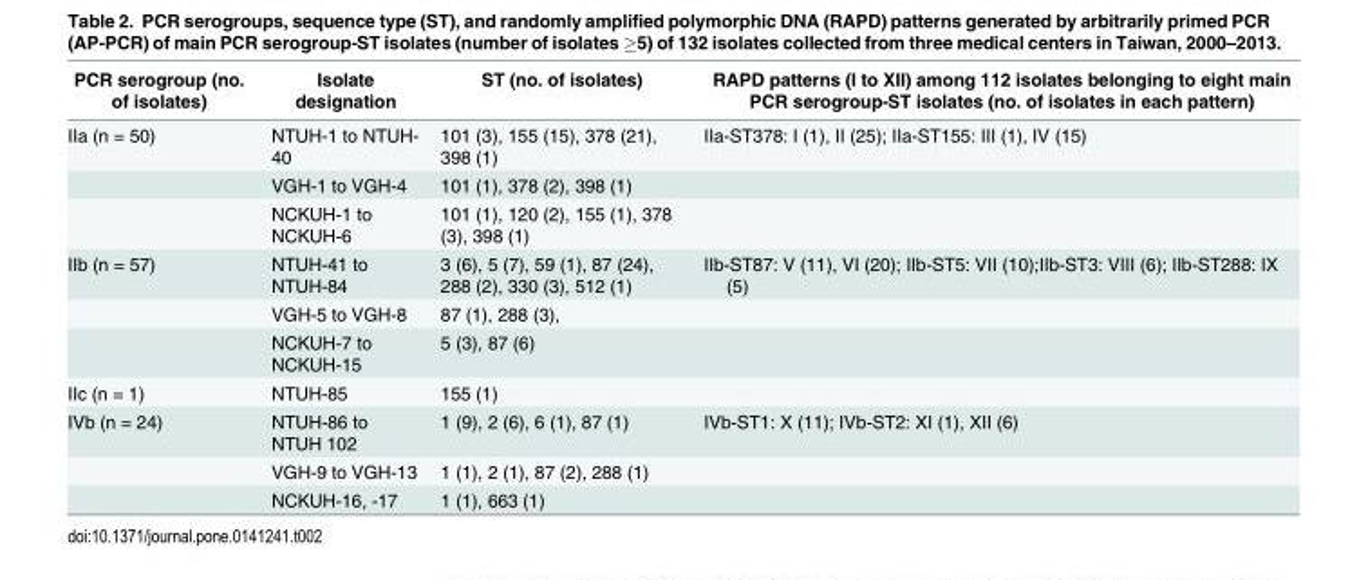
<table><thead><tr><td>PCR serogroup (no. of isolates)</td><td>Isolate designation</td><td>ST (no. of isolates)</td><td>RAPD patterns (I to XII) among 112 isolates belonging to eight main PCR serogroup-ST isolates (no. of isolates in each pattern)</td></tr></thead><tbody><tr><td rowspan="3">IIa (n = 50)</td><td>NTUH-1 to NTUH- 40</td><td>101 (3), 155 (15), 378 (21), 398 (1)</td><td>IIa-ST378: I (1), II (25); IIa-ST155: III (1), IV (15)</td></tr><tr><td>VGH-1 to VGH-4</td><td>101 (1), 378 (2), 398 (1)</td><td></td></tr><tr><td>NCKUH-1 to NCKUH-6</td><td>101 (1), 120 (2), 155 (1), 378 (3), 398 (1)</td><td></td></tr><tr><td rowspan="3">IIb (n = 57)</td><td>NTUH-41 to NTUH-84</td><td>3 (6), 5 (7), 59 (1), 87 (24), 288 (2), 330 (3), 512 (1)</td><td>IIb-ST87: V (11), VI (20); IIb-ST5: VII (10);IIb-ST3: VIII (6); IIb-ST288: IX (5)</td></tr><tr><td>VGH-5 to VGH-8</td><td>87 (1), 288 (3),</td><td></td></tr><tr><td>NCKUH-7 to NCKUH-15</td><td>5 (3), 87 (6)</td><td></td></tr><tr><td>IIc (n = 1)</td><td>NTUH-85</td><td>155 (1)</td><td></td></tr><tr><td rowspan="3">IVb (n = 24)</td><td>NTUH-86 to NTUH 102</td><td>1 (9), 2 (6), 6 (1), 87 (1)</td><td>IVb-ST1: X (11); IVb-ST2: XI (1), XII (6)</td></tr><tr><td>VGH-9 to VGH-13</td><td>1 (1), 2 (1), 87 (2), 288 (1)</td><td></td></tr><tr><td>NCKUH-16, -17</td><td>1 (1), 663 (1)</td><td></td></tr></tbody></table>